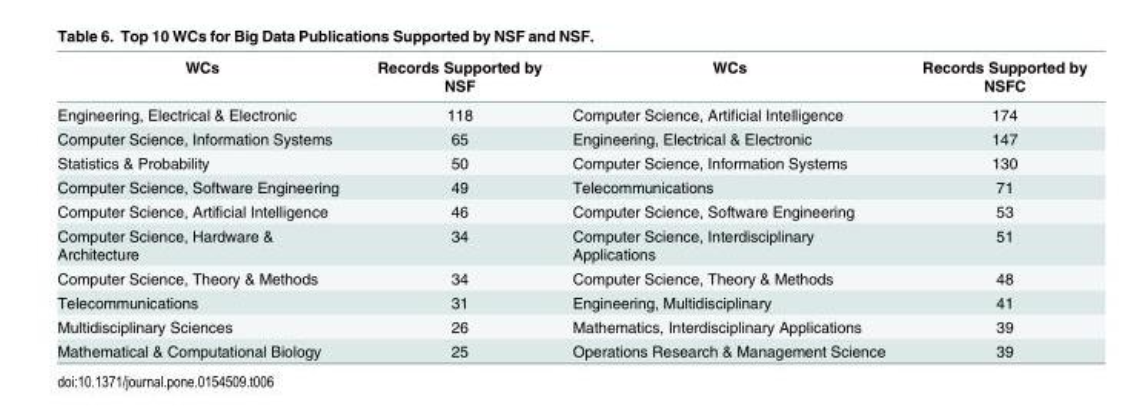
<table><thead><tr><td>WCs</td><td>Records Supported by NSF</td><td>WCs</td><td>Records Supported by NSFC</td></tr></thead><tbody><tr><td>Engineering, Electrical &amp; Electronic</td><td>118</td><td>Computer Science, Artificial Intelligence</td><td>174</td></tr><tr><td>Computer Science, Information Systems</td><td>65</td><td>Engineering, Electrical &amp; Electronic</td><td>147</td></tr><tr><td>Statistics &amp; Probability</td><td>50</td><td>Computer Science, Information Systems</td><td>130</td></tr><tr><td>Computer Science, Software Engineering</td><td>49</td><td>Telecommunications</td><td>71</td></tr><tr><td>Computer Science, Artificial Intelligence</td><td>46</td><td>Computer Science, Software Engineering</td><td>53</td></tr><tr><td>Computer Science, Hardware &amp; Architecture</td><td>34</td><td>Computer Science, Interdisciplinary Applications</td><td>51</td></tr><tr><td>Computer Science, Theory &amp; Methods</td><td>34</td><td>Computer Science, Theory &amp; Methods</td><td>48</td></tr><tr><td>Telecommunications</td><td>31</td><td>Engineering, Multidisciplinary</td><td>41</td></tr><tr><td>Multidisciplinary Sciences</td><td>26</td><td>Mathematics, Interdisciplinary Applications</td><td>39</td></tr><tr><td>Mathematical &amp; Computational Biology</td><td>25</td><td>Operations Research &amp; Management Science</td><td>39</td></tr></tbody></table>